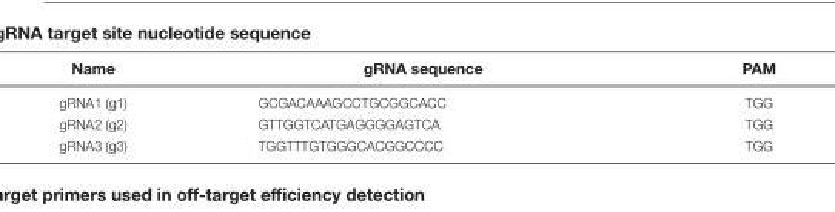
<table><thead><tr><td>Name</td><td>gRNA sequence</td><td>PAM</td></tr></thead><tbody><tr><td>gRNA1 (g1)</td><td>GCGACAAAGCCTGCGGCACC</td><td>TGG</td></tr><tr><td>gRNA2 (g2)</td><td>GTTGGTCATGAGGGGAGTCA</td><td>TGG</td></tr><tr><td>gRNA3 (g3)</td><td>TGGTTTGTGGGCACGGCCCC</td><td>TGG</td></tr></tbody></table>